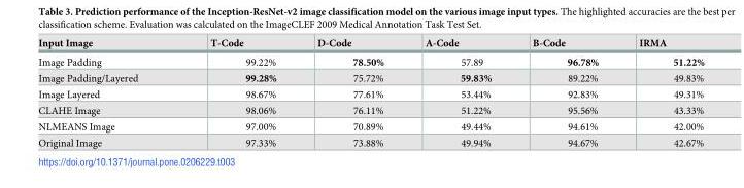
<table><thead><tr><td>Input Image</td><td>T-Code</td><td>D-Code</td><td>A-Code</td><td>B-Code</td><td>IRMA</td></tr></thead><tbody><tr><td>Image Padding</td><td>99.22%</td><td>78.50%</td><td>57.89</td><td>96.78%</td><td>51.22%</td></tr><tr><td>Image Padding/Layered</td><td>99.28%</td><td>75.72%</td><td>59.83%</td><td>89.22%</td><td>49.83%</td></tr><tr><td>Image Layered</td><td>98.67%</td><td>77.61%</td><td>53.44%</td><td>92.83%</td><td>49.31%</td></tr><tr><td>CLAHE Image</td><td>98.06%</td><td>76.11%</td><td>51.22%</td><td>95.56%</td><td>43.33%</td></tr><tr><td>NLMEANS Image</td><td>97.00%</td><td>70.89%</td><td>49.44%</td><td>94.61%</td><td>42.00%</td></tr><tr><td>Original Image</td><td>97.33%</td><td>73.88%</td><td>49.94%</td><td>94.67%</td><td>42.67%</td></tr></tbody></table>